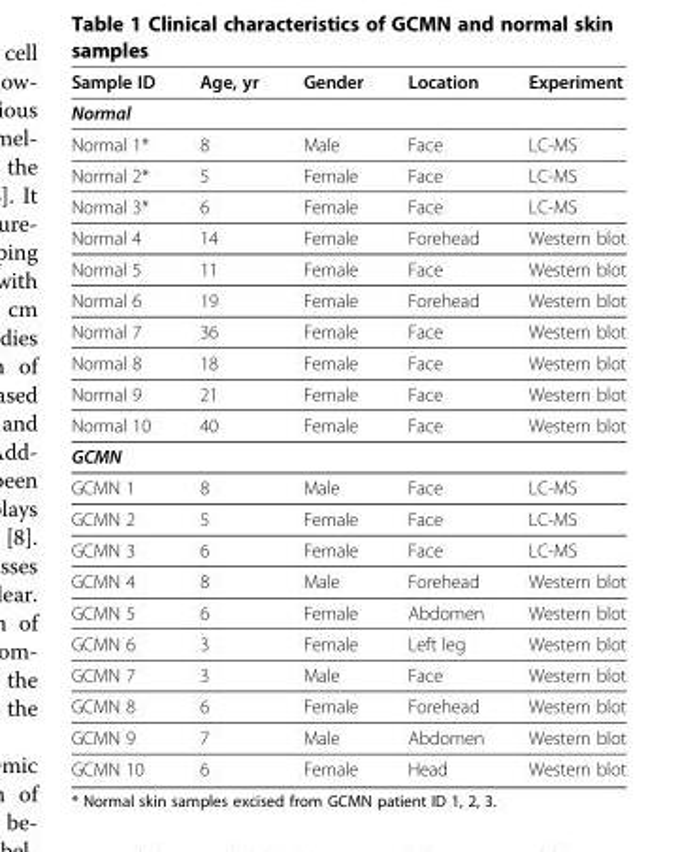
<table><thead><tr><td>Sample ID</td><td>Age, yr</td><td>Gender</td><td>Location</td><td>Experiment</td></tr></thead><tbody><tr><td colspan="5">Normal</td></tr><tr><td>Normal 1*</td><td>8</td><td>Male</td><td>Face</td><td>LC-MS</td></tr><tr><td>Normal 2*</td><td>5</td><td>Female</td><td>Face</td><td>LC-MS</td></tr><tr><td>Normal 3*</td><td>6</td><td>Female</td><td>Face</td><td>LC-MS</td></tr><tr><td>Normal 4</td><td>14</td><td>Female</td><td>Forehead</td><td>Western blot</td></tr><tr><td>Normal 5</td><td>11</td><td>Female</td><td>Face</td><td>Western blot</td></tr><tr><td>Normal 6</td><td>19</td><td>Female</td><td>Forehead</td><td>Western blot</td></tr><tr><td>Normal 7</td><td>36</td><td>Female</td><td>Face</td><td>Western blot</td></tr><tr><td>Normal 8</td><td>18</td><td>Female</td><td>Face</td><td>Western blot</td></tr><tr><td>Normal 9</td><td>21</td><td>Female</td><td>Face</td><td>Western blot</td></tr><tr><td>Normal 10</td><td>40</td><td>Female</td><td>Face</td><td>Western blot</td></tr><tr><td colspan="5">GCMN</td></tr><tr><td>GCMN 1</td><td>8</td><td>Male</td><td>Face</td><td>LC-MS</td></tr><tr><td>GCMN 2</td><td>5</td><td>Female</td><td>Face</td><td>LC-MS</td></tr><tr><td>GCMN 3</td><td>6</td><td>Female</td><td>Face</td><td>LC-MS</td></tr><tr><td>GCMN 4</td><td>8</td><td>Male</td><td>Forehead</td><td>Western blot</td></tr><tr><td>GCMN 5</td><td>6</td><td>Female</td><td>Abdomen</td><td>Western blot</td></tr><tr><td>GCMN 6</td><td>3</td><td>Female</td><td>Left leg</td><td>Western blot</td></tr><tr><td>GCMN 7</td><td>3</td><td>Male</td><td>Face</td><td>Western blot</td></tr><tr><td>GCMN 8</td><td>6</td><td>Female</td><td>Forehead</td><td>Western blot</td></tr><tr><td>GCMN 9</td><td>7</td><td>Male</td><td>Abdomen</td><td>Western blot</td></tr><tr><td>GCMN 10</td><td>6</td><td>Female</td><td>Head</td><td>Western blot</td></tr></tbody></table>